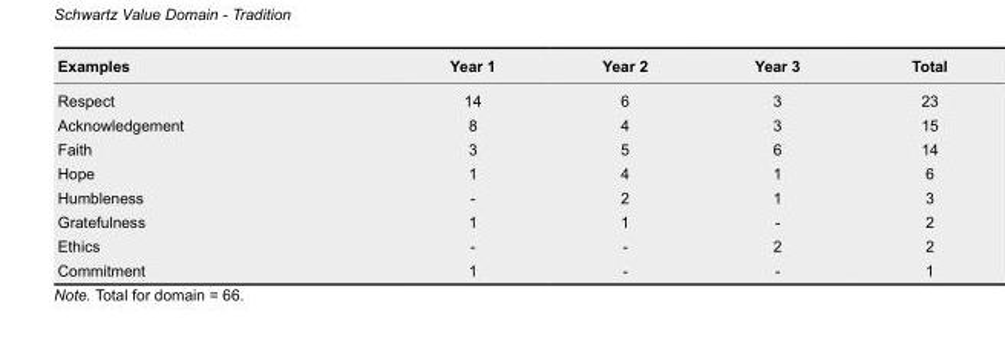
<table><thead><tr><td>Examples</td><td>Year 1</td><td>Year 2</td><td>Year 3</td><td>Total</td></tr></thead><tbody><tr><td>Respect</td><td>14</td><td>6</td><td>3</td><td>23</td></tr><tr><td>Acknowledgement</td><td>8</td><td>4</td><td>3</td><td>15</td></tr><tr><td>Faith</td><td>3</td><td>5</td><td>6</td><td>14</td></tr><tr><td>Hope</td><td>1</td><td>4</td><td>1</td><td>6</td></tr><tr><td>Humbleness</td><td>-</td><td>2</td><td>1</td><td>3</td></tr><tr><td>Gratefulness</td><td>1</td><td>1</td><td>-</td><td>2</td></tr><tr><td>Ethics</td><td>-</td><td>-</td><td>2</td><td>2</td></tr><tr><td>Commitment</td><td>1</td><td>-</td><td>-</td><td>1</td></tr></tbody></table>